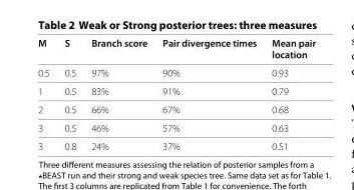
<table><thead><tr><td>M</td><td>S</td><td>Branch score</td><td>Pair divergence times</td><td>Mean pair location</td></tr></thead><tbody><tr><td>0.5</td><td>0.5</td><td>97%</td><td>90%</td><td>0.93</td></tr><tr><td>1</td><td>0.5</td><td>83%</td><td>91%</td><td>0.79</td></tr><tr><td>2</td><td>0.5</td><td>66%</td><td>67%</td><td>0.68</td></tr><tr><td>3</td><td>0.5</td><td>46%</td><td>57%</td><td>0.63</td></tr><tr><td>3</td><td>0.8</td><td>24%</td><td>37%</td><td>0.51</td></tr></tbody></table>